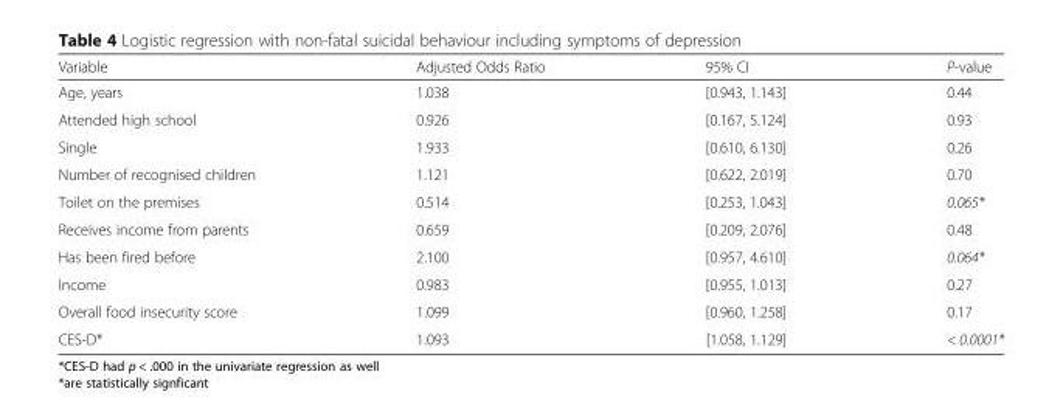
<table><thead><tr><td>Variable</td><td>Adjusted Odds Ratio</td><td>95% CI</td><td>P-value</td></tr></thead><tbody><tr><td>Age, years</td><td>1.038</td><td>[0.943, 1.143]</td><td>0.44</td></tr><tr><td>Attended high school</td><td>0.926</td><td>[0.167, 5.124]</td><td>0.93</td></tr><tr><td>Single</td><td>1.933</td><td>[0.610, 6.130]</td><td>0.26</td></tr><tr><td>Number of recognised children</td><td>1.121</td><td>[0.622, 2.019]</td><td>0.70</td></tr><tr><td>Toilet on the premises</td><td>0.514</td><td>[0.253, 1.043]</td><td>0.065*</td></tr><tr><td>Receives income from parents</td><td>0.659</td><td>[0.209, 2.076]</td><td>0.48</td></tr><tr><td>Has been fired before</td><td>2.100</td><td>[0.957, 4.610]</td><td>0.064*</td></tr><tr><td>Income</td><td>0.983</td><td>[0.955, 1.013]</td><td>0.27</td></tr><tr><td>Overall food insecurity score</td><td>1.099</td><td>[0.960, 1.258]</td><td>0.17</td></tr><tr><td>CES-D*</td><td>1.093</td><td>[1.058, 1.129]</td><td>&lt; 0.0001*</td></tr></tbody></table>